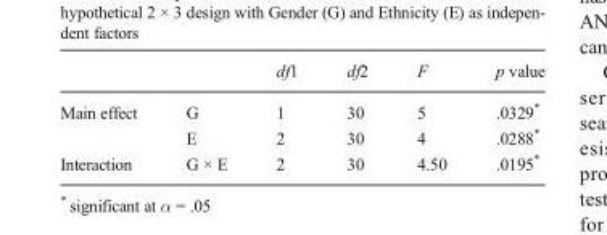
<table><thead><tr><td></td><td></td><td>df1</td><td>df2</td><td>F</td><td>p value</td></tr></thead><tbody><tr><td rowspan="2">Main effect</td><td>G</td><td>1</td><td>30</td><td>5</td><td>.0329*</td></tr><tr><td>E</td><td>2</td><td>30</td><td>4</td><td>.0288*</td></tr><tr><td>Interaction</td><td>G × E</td><td>2</td><td>30</td><td>4.50</td><td>.0195*</td></tr></tbody></table>